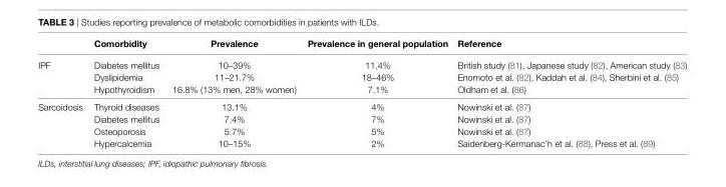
<table><thead><tr><td></td><td>Comorbidity</td><td>Prevalence</td><td>Prevalence in general population</td><td>Reference</td></tr></thead><tbody><tr><td rowspan="3">IPF</td><td>Diabetes mellitus</td><td>10–39%</td><td>11.4%</td><td>British study (81), Japanese study (82), American study (83)</td></tr><tr><td>Dyslipidemia</td><td>11–21.7%</td><td>18–46%</td><td>Enomoto et al. (82), Kaddah et al. (84), Sherbini et al. (85)</td></tr><tr><td>Hypothyroidism</td><td>16.8% (13% men, 28% women)</td><td>7.1%</td><td>Oldham et al. (86)</td></tr><tr><td rowspan="4">Sarcoidosis</td><td>Thyroid diseases</td><td>13.1%</td><td>4%</td><td>Nowinski et al. (87)</td></tr><tr><td>Diabetes mellitus</td><td>7.4%</td><td>7%</td><td>Nowinski et al. (87)</td></tr><tr><td>Osteoporosis</td><td>5.7%</td><td>5%</td><td>Nowinski et al. (87)</td></tr><tr><td>Hypercalcemia</td><td>10–15%</td><td>2%</td><td>Saidenberg-Kermanac’h et al. (88), Press et al. (89)</td></tr></tbody></table>